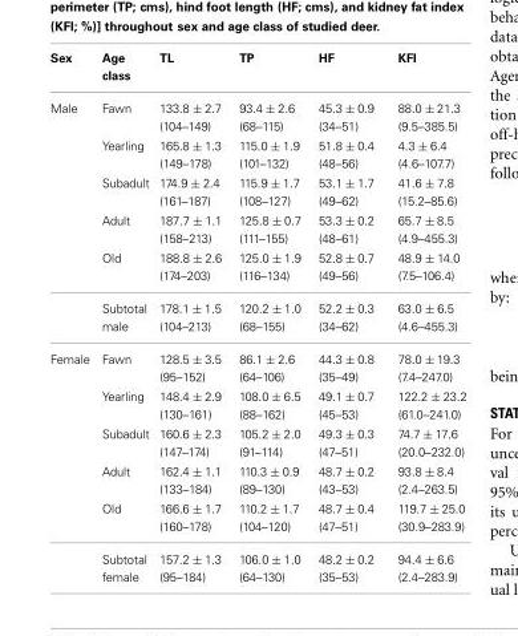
<table><thead><tr><td>Sex</td><td>Age class</td><td>TL</td><td>TP</td><td>HF</td><td>KFI</td></tr></thead><tbody><tr><td rowspan="6">Male</td><td>Fawn</td><td>133.8 ± 2.7 (104–149)</td><td>93.4 ± 2.6 (68–115)</td><td>45.3 ± 0.9 (34–51)</td><td>88.0 ± 21.3 (9.5–385.5)</td></tr><tr><td>Yearling</td><td>165.8 ± 1.3 (149–178)</td><td>115.0 ± 1.9 (101–132)</td><td>51.8 ± 0.4 (48–56)</td><td>4.3 ± 6.4 (4.6–107.7)</td></tr><tr><td>Subadult</td><td>174.9 ± 2.4 (161–187)</td><td>115.9 ± 1.7 (108–127)</td><td>53.1 ± 1.7 (49–62)</td><td>41.6 ± 7.8 (15.2–85.6)</td></tr><tr><td>Adult</td><td>187.7 ± 1.1 (158–213)</td><td>125.8 ± 0.7 (111–155)</td><td>53.3 ± 0.2 (48–61)</td><td>65.7 ± 8.5 (4.9–455.3)</td></tr><tr><td>Old</td><td>188.8 ± 2.6 (174–203)</td><td>125.0 ± 1.9 (116–134)</td><td>52.8 ± 0.7 (49–56)</td><td>48.9 ± 14.0 (7.5–106.4)</td></tr><tr><td>Subtotal male</td><td>178.1 ± 1.5 (104–213)</td><td>120.2 ± 1.0 (68–155)</td><td>52.2 ± 0.3 (34–62)</td><td>63.0 ± 6.5 (4.6–455.3)</td></tr><tr><td rowspan="6">Female</td><td>Fawn</td><td>128.5 ± 3.5 (95–152)</td><td>86.1 ± 2.6 (64–106)</td><td>44.3 ± 0.8 (35–49)</td><td>78.0 ± 19.3 (7.4–247.0)</td></tr><tr><td>Yearling</td><td>148.4 ± 2.9 (130–161)</td><td>108.0 ± 6.5 (88–162)</td><td>49.1 ± 0.7 (45–53)</td><td>122.2 ± 23.2 (61.0–241.0)</td></tr><tr><td>Subadult</td><td>160.6 ± 2.3 (147–174)</td><td>105.2 ± 2.0 (91–114)</td><td>49.3 ± 0.3 (47–51)</td><td>74.7 ± 17.6 (20.0–232.0)</td></tr><tr><td>Adult</td><td>162.4 ± 1.1 (133–184)</td><td>110.3 ± 0.9 (89–130)</td><td>48.7 ± 0.2 (43–53)</td><td>93.8 ± 8.4 (2.4–263.5)</td></tr><tr><td>Old</td><td>166.6 ± 1.7 (160–178)</td><td>110.2 ± 1.7 (104–120)</td><td>48.7 ± 0.4 (47–51)</td><td>119.7 ± 25.0 (30.9–283.9)</td></tr><tr><td>Subtotal female</td><td>157.2 ± 1.3 (95–184)</td><td>106.0 ± 1.0 (64–130)</td><td>48.2 ± 0.2 (35–53)</td><td>94.4 ± 6.6 (2.4–283.9)</td></tr></tbody></table>